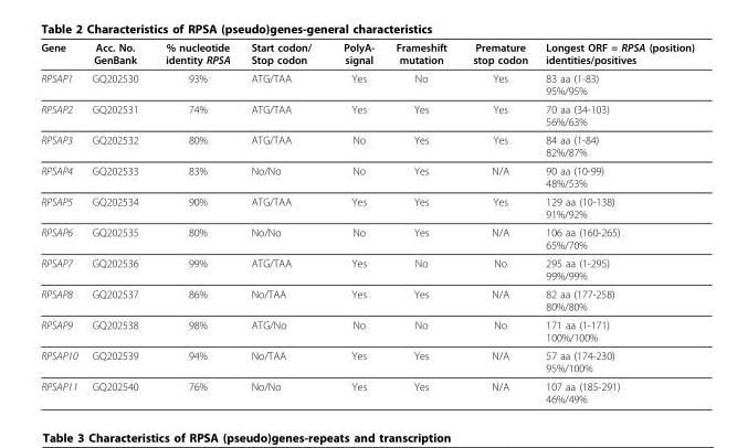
<table><thead><tr><td>Gene</td><td>Acc. No. GenBank</td><td>% nucleotide identity RPSA</td><td>Start codon/ Stop codon</td><td>PolyA- signal</td><td>Frameshift mutation</td><td>Premature stop codon</td><td>Longest ORF = RPSA (position) identities/positives</td></tr></thead><tbody><tr><td>RPSAP1</td><td>GQ202530</td><td>93%</td><td>ATG/TAA</td><td>Yes</td><td>No</td><td>Yes</td><td>83 aa (1-83) 95%/95%</td></tr><tr><td>RPSAP2</td><td>GQ202531</td><td>74%</td><td>ATG/TAA</td><td>Yes</td><td>Yes</td><td>Yes</td><td>70 aa (34-103) 56%/63%</td></tr><tr><td>RPSAP3</td><td>GQ202532</td><td>80%</td><td>ATG/TAA</td><td>No</td><td>Yes</td><td>Yes</td><td>84 aa (1-84) 82%/87%</td></tr><tr><td>RPSAP4</td><td>GQ202533</td><td>83%</td><td>No/No</td><td>No</td><td>Yes</td><td>N/A</td><td>90 aa (10-99) 48%/53%</td></tr><tr><td>RPSAP5</td><td>GQ202534</td><td>90%</td><td>ATG/TAA</td><td>Yes</td><td>Yes</td><td>Yes</td><td>129 aa (10-138) 91%/92%</td></tr><tr><td>RPSAP6</td><td>GQ202535</td><td>80%</td><td>No/No</td><td>No</td><td>Yes</td><td>N/A</td><td>106 aa (160-265) 65%/70%</td></tr><tr><td>RPSAP7</td><td>GQ202536</td><td>99%</td><td>ATG/TAA</td><td>Yes</td><td>No</td><td>No</td><td>295 aa (1-295) 99%/99%</td></tr><tr><td>RPSAP8</td><td>GQ202537</td><td>86%</td><td>No/TAA</td><td>Yes</td><td>Yes</td><td>N/A</td><td>82 aa (177-258) 80%/80%</td></tr><tr><td>RPSAP9</td><td>GQ202538</td><td>98%</td><td>ATG/No</td><td>No</td><td>No</td><td>No</td><td>171 aa (1-171) 100%/100%</td></tr><tr><td>RPSAP10</td><td>GQ202539</td><td>94%</td><td>No/TAA</td><td>Yes</td><td>Yes</td><td>N/A</td><td>57 aa (174-230) 95%/100%</td></tr><tr><td>RPSAP11</td><td>GQ202540</td><td>76%</td><td>No/No</td><td>Yes</td><td>Yes</td><td>N/A</td><td>107 aa (185-291) 46%/49%</td></tr></tbody></table>